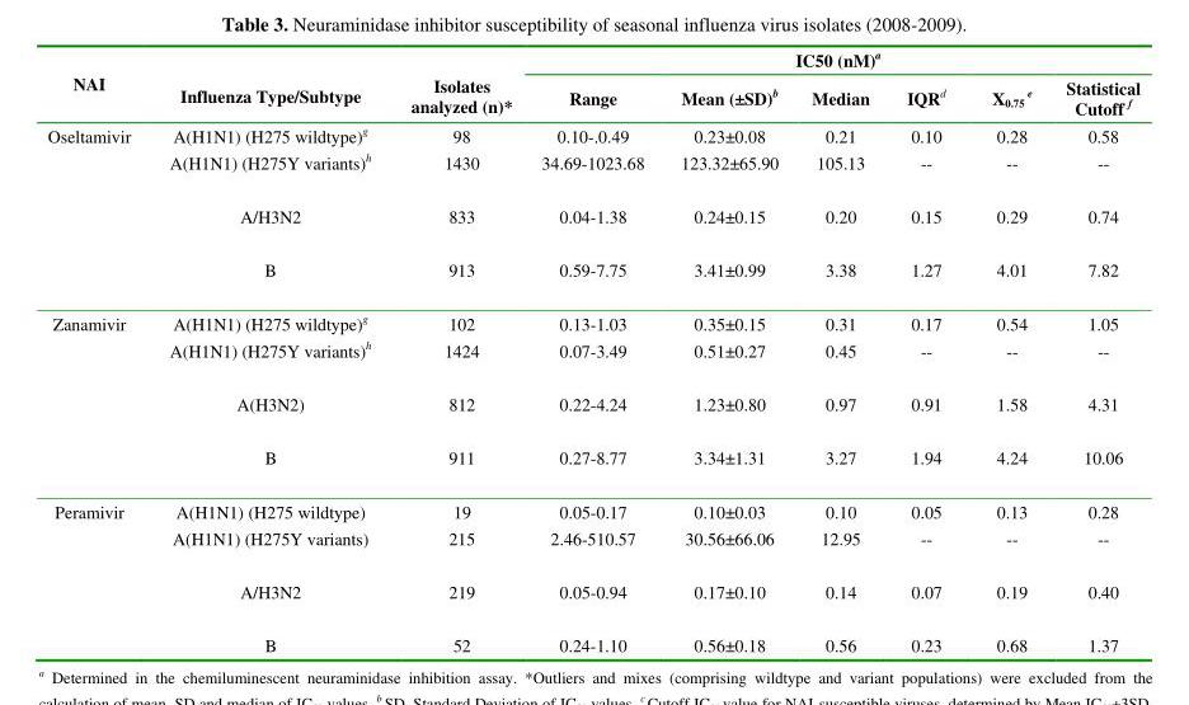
<table><thead><tr><td rowspan="2">NAI</td><td rowspan="2">Influenza Type/Subtype</td><td rowspan="2">Isolates analyzed (n)*</td><td colspan="6">IC50 (nM)<sup>a</sup></td></tr><tr><td>Range</td><td>Mean (±SD)<sup>b</sup></td><td>Median</td><td>IQR<sup>d</sup></td><td>X<sub>0.75</sub> <sup>e</sup></td><td>Statistical Cutoff <sup>f</sup></td></tr></thead><tbody><tr><td rowspan="4">Oseltamivir</td><td>A(H1N1) (H275 wildtype)<sup>g</sup></td><td>98</td><td>0.10-.0.49</td><td>0.23±0.08</td><td>0.21</td><td>0.10</td><td>0.28</td><td>0.58</td></tr><tr><td>A(H1N1) (H275Y variants)<sup>h</sup></td><td>1430</td><td>34.69-1023.68</td><td>123.32±65.90</td><td>105.13</td><td>--</td><td>--</td><td>--</td></tr><tr><td>A/H3N2</td><td>833</td><td>0.04-1.38</td><td>0.24±0.15</td><td>0.20</td><td>0.15</td><td>0.29</td><td>0.74</td></tr><tr><td>B</td><td>913</td><td>0.59-7.75</td><td>3.41±0.99</td><td>3.38</td><td>1.27</td><td>4.01</td><td>7.82</td></tr><tr><td rowspan="4">Zanamivir</td><td>A(H1N1) (H275 wildtype)<sup>g</sup></td><td>102</td><td>0.13-1.03</td><td>0.35±0.15</td><td>0.31</td><td>0.17</td><td>0.54</td><td>1.05</td></tr><tr><td>A(H1N1) (H275Y variants)<sup>h</sup></td><td>1424</td><td>0.07-3.49</td><td>0.51±0.27</td><td>0.45</td><td>--</td><td>--</td><td>--</td></tr><tr><td>A(H3N2)</td><td>812</td><td>0.22-4.24</td><td>1.23±0.80</td><td>0.97</td><td>0.91</td><td>1.58</td><td>4.31</td></tr><tr><td>B</td><td>911</td><td>0.27-8.77</td><td>3.34±1.31</td><td>3.27</td><td>1.94</td><td>4.24</td><td>10.06</td></tr><tr><td rowspan="4">Peramivir</td><td>A(H1N1) (H275 wildtype)</td><td>19</td><td>0.05-0.17</td><td>0.10±0.03</td><td>0.10</td><td>0.05</td><td>0.13</td><td>0.28</td></tr><tr><td>A(H1N1) (H275Y variants)</td><td>215</td><td>2.46-510.57</td><td>30.56±66.06</td><td>12.95</td><td>--</td><td>--</td><td>--</td></tr><tr><td>A/H3N2</td><td>219</td><td>0.05-0.94</td><td>0.17±0.10</td><td>0.14</td><td>0.07</td><td>0.19</td><td>0.40</td></tr><tr><td>B</td><td>52</td><td>0.24-1.10</td><td>0.56±0.18</td><td>0.56</td><td>0.23</td><td>0.68</td><td>1.37</td></tr></tbody></table>